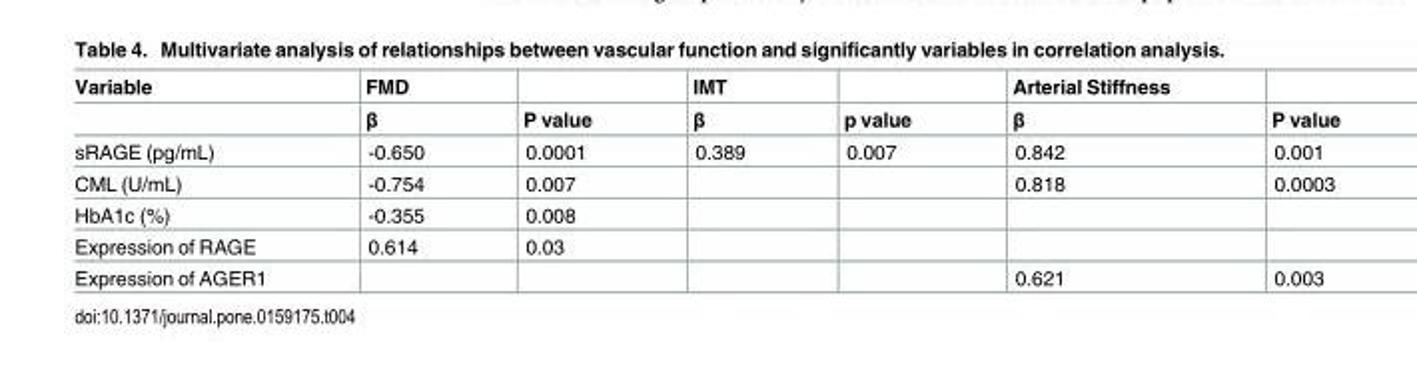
<table><thead><tr><td rowspan="2">Variable</td><td rowspan="2">FMD β</td><td rowspan="2">P value</td><td rowspan="2">IMT β</td><td rowspan="2">p value</td><td rowspan="2">Arterial Stiffness β</td><td rowspan="2">P value</td></tr><tr></tr></thead><tbody><tr><td>sRAGE (pg/mL)</td><td>-0.650</td><td>0.0001</td><td>0.389</td><td>0.007</td><td>0.842</td><td>0.001</td></tr><tr><td>CML (U/mL)</td><td>-0.754</td><td>0.007</td><td></td><td></td><td>0.818</td><td>0.0003</td></tr><tr><td>HbA1c (%)</td><td>-0.355</td><td>0.008</td><td></td><td></td><td></td><td></td></tr><tr><td>Expression of RAGE</td><td>0.614</td><td>0.03</td><td></td><td></td><td></td><td></td></tr><tr><td>Expression of AGER1</td><td></td><td></td><td></td><td></td><td>0.621</td><td>0.003</td></tr></tbody></table>